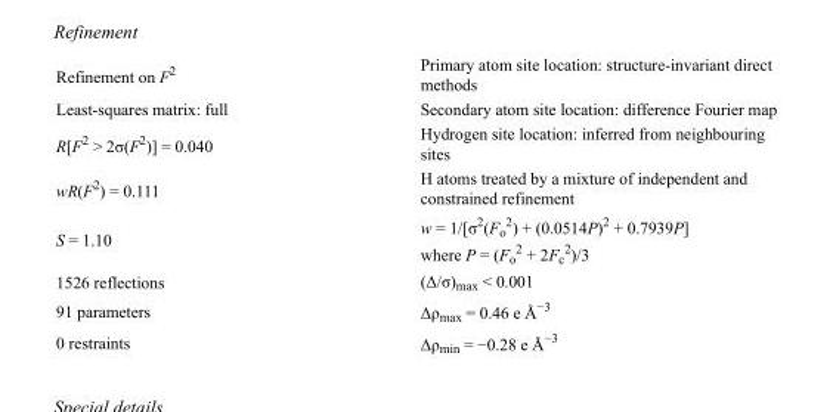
<table><tbody><tr><td>Refinement on F<sup>2</sup></td><td>Primary atom site location: structure-invariant direct methods</td></tr><tr><td>Least-squares matrix: full</td><td>Secondary atom site location: difference Fourier map</td></tr><tr><td>R[F<sup>2</sup> &gt; 2σ(F<sup>2</sup>)] = 0.040</td><td>Hydrogen site location: inferred from neighbouring sites</td></tr><tr><td>wR(F<sup>2</sup>) = 0.111</td><td>H atoms treated by a mixture of independent and constrained refinement</td></tr><tr><td>S = 1.10</td><td>w = 1/[σ<sup>2</sup>(F<sub>o</sub> <sup>2</sup>) + (0.0514P)<sup>2</sup> + 0.7939P] where P = (F<sub>o</sub> <sup>2</sup> + 2F<sub>c</sub> <sup>2</sup>)/3</td></tr><tr><td>1526 reflections</td><td>(Δ/σ)<sub>max</sub> &lt; 0.001</td></tr><tr><td>91 parameters</td><td>Δρ<sub>max</sub> = 0.46 e Å<sup>−3</sup></td></tr><tr><td>0 restraints</td><td>Δρ<sub>min</sub> = −0.28 e Å<sup>−3</sup></td></tr></tbody></table>